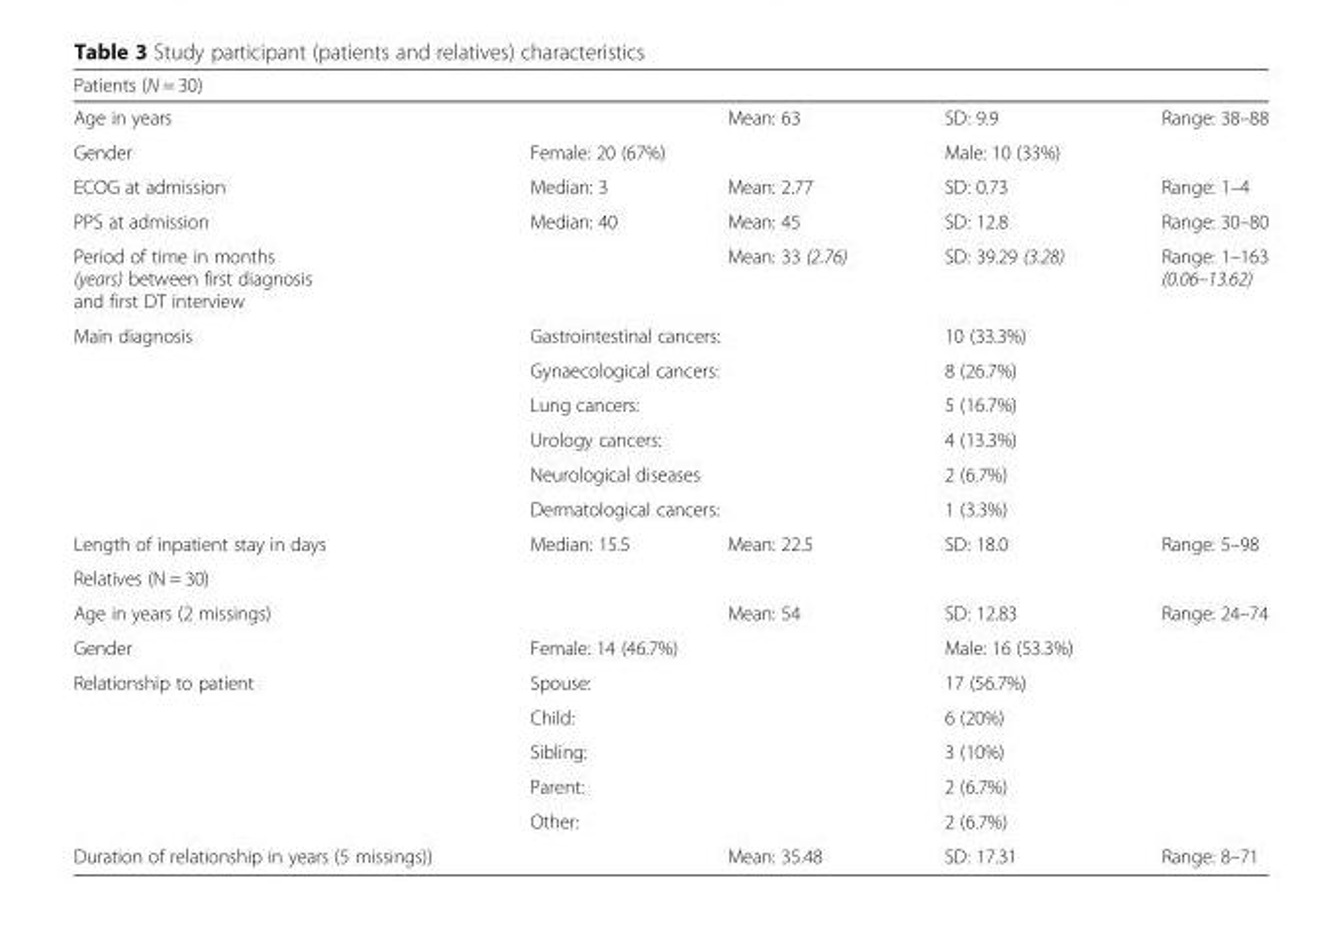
<table><thead><tr><td>Patients (N = 30)</td><td></td><td></td><td></td><td></td></tr></thead><tbody><tr><td>Age in years</td><td></td><td>Mean: 63</td><td>SD: 9.9</td><td>Range: 38–88</td></tr><tr><td>Gender</td><td colspan="2">Female: 20 (67%)</td><td colspan="2">Male: 10 (33%)</td></tr><tr><td>ECOG at admission</td><td>Median: 3</td><td>Mean: 2.77</td><td>SD: 0.73</td><td>Range: 1–4</td></tr><tr><td>PPS at admission</td><td>Median: 40</td><td>Mean: 45</td><td>SD: 12.8</td><td>Range: 30–80</td></tr><tr><td>Period of time in months (years) between first diagnosis and first DT interview</td><td></td><td>Mean: 33 (2.76)</td><td>SD: 39.29 (3.28)</td><td>Range: 1–163 (0.06–13.62)</td></tr><tr><td rowspan="6">Main diagnosis</td><td colspan="2">Gastrointestinal cancers:</td><td colspan="2">10 (33.3%)</td></tr><tr><td colspan="2">Gynaecological cancers:</td><td colspan="2">8 (26.7%)</td></tr><tr><td colspan="2">Lung cancers:</td><td colspan="2">5 (16.7%)</td></tr><tr><td colspan="2">Urology cancers:</td><td colspan="2">4 (13.3%)</td></tr><tr><td colspan="2">Neurological diseases</td><td colspan="2">2 (6.7%)</td></tr><tr><td colspan="2">Dermatological cancers:</td><td colspan="2">1 (3.3%)</td></tr><tr><td>Length of inpatient stay in days</td><td>Median: 15.5</td><td>Mean: 22.5</td><td>SD: 18.0</td><td>Range: 5–98</td></tr><tr><td colspan="5">Relatives (N = 30)</td></tr><tr><td>Age in years (2 missings)</td><td></td><td>Mean: 54</td><td>SD: 12.83</td><td>Range: 24–74</td></tr><tr><td>Gender</td><td colspan="2">Female: 14 (46.7%)</td><td colspan="2">Male: 16 (53.3%)</td></tr><tr><td rowspan="5">Relationship to patient</td><td colspan="2">Spouse:</td><td colspan="2">17 (56.7%)</td></tr><tr><td colspan="2">Child:</td><td colspan="2">6 (20%)</td></tr><tr><td colspan="2">Sibling:</td><td colspan="2">3 (10%)</td></tr><tr><td colspan="2">Parent:</td><td colspan="2">2 (6.7%)</td></tr><tr><td colspan="2">Other:</td><td colspan="2">2 (6.7%)</td></tr><tr><td>Duration of relationship in years (5 missings))</td><td></td><td>Mean: 35.48</td><td>SD: 17.31</td><td>Range: 8–71</td></tr></tbody></table>